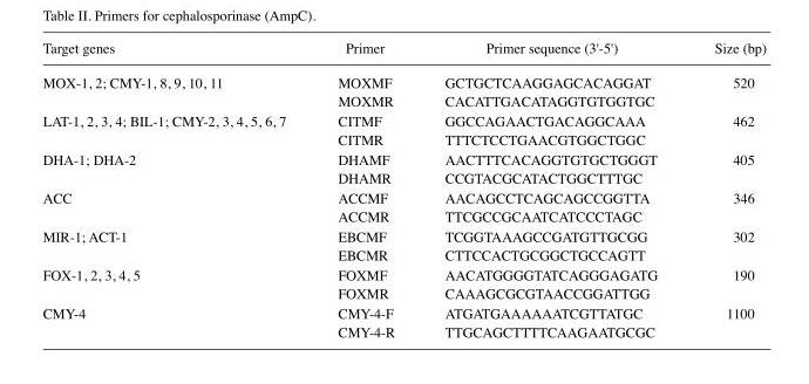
<table><thead><tr><td>Target genes</td><td>Primer</td><td>Primer sequence (3&#x27;-5&#x27;)</td><td>Size (bp)</td></tr></thead><tbody><tr><td rowspan="2">MOX-1, 2; CMY-1, 8, 9, 10, 11</td><td>MOXMF</td><td>GCTGCTCAAGGAGCACAGGAT</td><td>520</td></tr><tr><td>MOXMR</td><td>CACATTGACATAGGTGTGGTGC</td><td></td></tr><tr><td rowspan="2">LAT-1, 2, 3, 4; BIL-1; CMY-2, 3, 4, 5, 6, 7</td><td>CITMF</td><td>GGCCAGAACTGACAGGCAAA</td><td>462</td></tr><tr><td>CITMR</td><td>TTTCTCCTGAACGTGGCTGGC</td><td></td></tr><tr><td rowspan="2">DHA-1; DHA-2</td><td>DHAMF</td><td>AACTTTCACAGGTGTGCTGGGT</td><td>405</td></tr><tr><td>DHAMR</td><td>CCGTACGCATACTGGCTTTGC</td><td></td></tr><tr><td rowspan="2">ACC</td><td>ACCMF</td><td>AACAGCCTCAGCAGCCGGTTA</td><td>346</td></tr><tr><td>ACCMR</td><td>TTCGCCGCAATCATCCCTAGC</td><td></td></tr><tr><td rowspan="2">MIR-1; ACT-1</td><td>EBCMF</td><td>TCGGTAAAGCCGATGTTGCGG</td><td>302</td></tr><tr><td>EBCMR</td><td>CTTCCACTGCGGCTGCCAGTT</td><td></td></tr><tr><td rowspan="2">FOX-1, 2, 3, 4, 5</td><td>FOXMF</td><td>AACATGGGGTATCAGGGAGATG</td><td>190</td></tr><tr><td>FOXMR</td><td>CAAAGCGCGTAACCGGATTGG</td><td></td></tr><tr><td rowspan="2">CMY-4</td><td>CMY-4-F</td><td>ATGATGAAAAAATCGTTATGC</td><td>1100</td></tr><tr><td>CMY-4-R</td><td>TTGCAGCTTTTCAAGAATGCGC</td><td></td></tr></tbody></table>